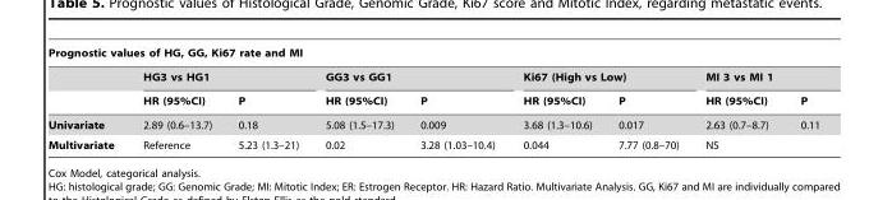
<table><thead><tr><td colspan="9">Prognostic values of HG, GG, Ki67 rate and MI</td></tr><tr><td rowspan="2"></td><td colspan="2">HG3 vs HG1</td><td colspan="2">GG3 vs GG1</td><td colspan="2">Ki67 (High vs Low)</td><td colspan="2">MI 3 vs MI 1</td></tr><tr><td>HR (95%CI)</td><td>P</td><td>HR (95%CI)</td><td>P</td><td>HR (95%CI)</td><td>P</td><td>HR (95%CI)</td><td>P</td></tr></thead><tbody><tr><td>Univariate</td><td>2.89 (0.6–13.7)</td><td>0.18</td><td>5.08 (1.5–17.3)</td><td>0.009</td><td>3.68 (1.3–10.6)</td><td>0.017</td><td>2.63 (0.7–8.7)</td><td>0.11</td></tr><tr><td>Multivariate</td><td>Reference</td><td>5.23 (1.3–21)</td><td>0.02</td><td>3.28 (1.03–10.4)</td><td>0.044</td><td>7.77 (0.8–70)</td><td>NS</td><td></td></tr></tbody></table>